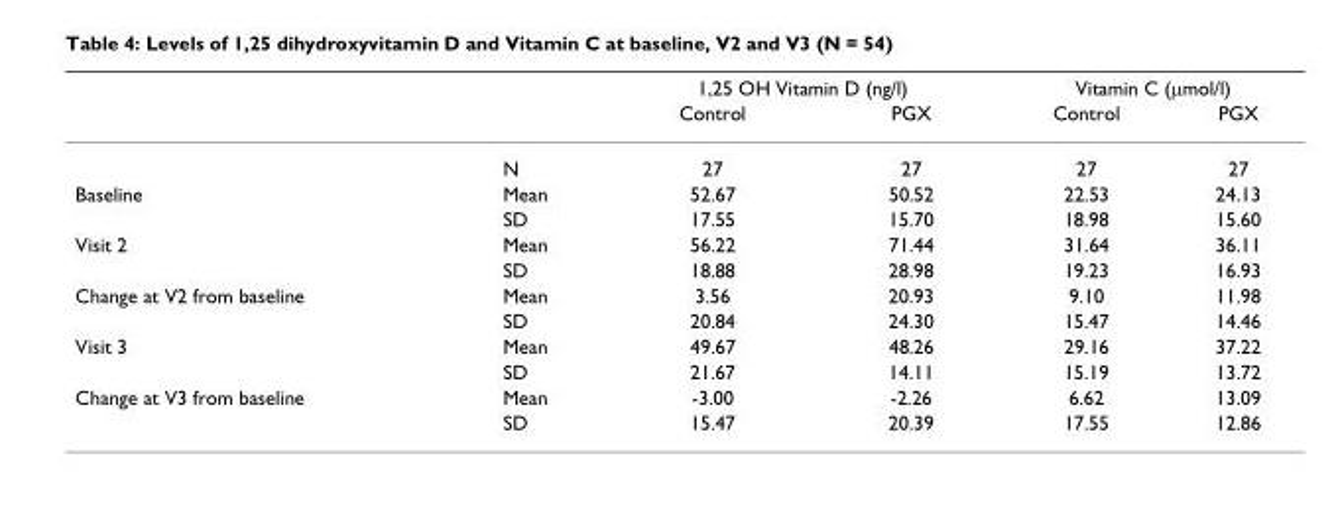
<table><thead><tr><td rowspan="2"></td><td rowspan="2"></td><td colspan="2">1,25 OH Vitamin D (ng/l)</td><td colspan="2">Vitamin C (μmol/l)</td></tr><tr><td>Control</td><td>PGX</td><td>Control</td><td>PGX</td></tr></thead><tbody><tr><td></td><td>N</td><td>27</td><td>27</td><td>27</td><td>27</td></tr><tr><td rowspan="2">Baseline</td><td>Mean</td><td>52.67</td><td>50.52</td><td>22.53</td><td>24.13</td></tr><tr><td>SD</td><td>17.55</td><td>15.70</td><td>18.98</td><td>15.60</td></tr><tr><td rowspan="2">Visit 2</td><td>Mean</td><td>56.22</td><td>71.44</td><td>31.64</td><td>36.11</td></tr><tr><td>SD</td><td>18.88</td><td>28.98</td><td>19.23</td><td>16.93</td></tr><tr><td rowspan="2">Change at V2 from baseline</td><td>Mean</td><td>3.56</td><td>20.93</td><td>9.10</td><td>11.98</td></tr><tr><td>SD</td><td>20.84</td><td>24.30</td><td>15.47</td><td>14.46</td></tr><tr><td rowspan="2">Visit 3</td><td>Mean</td><td>49.67</td><td>48.26</td><td>29.16</td><td>37.22</td></tr><tr><td>SD</td><td>21.67</td><td>14.11</td><td>15.19</td><td>13.72</td></tr><tr><td rowspan="2">Change at V3 from baseline</td><td>Mean</td><td>-3.00</td><td>-2.26</td><td>6.62</td><td>13.09</td></tr><tr><td>SD</td><td>15.47</td><td>20.39</td><td>17.55</td><td>12.86</td></tr></tbody></table>